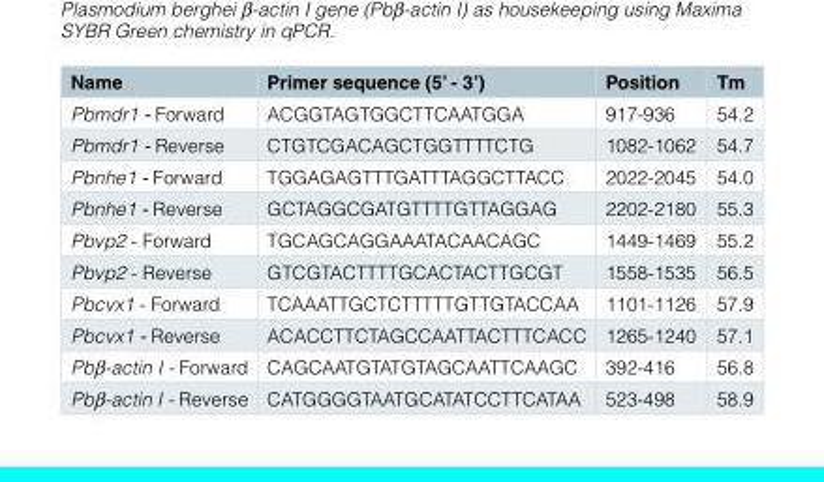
<table><thead><tr><td>Name</td><td>Primer sequence (5’ - 3’)</td><td>Position</td><td>Tm</td></tr></thead><tbody><tr><td>Pbmdr1 - Forward</td><td>ACGGTAGTGGCTTCAATGGA</td><td>917-936</td><td>54.2</td></tr><tr><td>Pbmdr1 - Reverse</td><td>CTGTCGACAGCTGGTTTTCTG</td><td>1082-1062</td><td>54.7</td></tr><tr><td>Pbnhe1 - Forward</td><td>TGGAGAGTTTGATTTAGGCTTACC</td><td>2022-2045</td><td>54.0</td></tr><tr><td>Pbnhe1 - Reverse</td><td>GCTAGGCGATGTTTTGTTAGGAG</td><td>2202-2180</td><td>55.3</td></tr><tr><td>Pbvp2 - Forward</td><td>TGCAGCAGGAAATACAACAGC</td><td>1449-1469</td><td>55.2</td></tr><tr><td>Pbvp2 - Reverse</td><td>GTCGTACTTTTGCACTACTTGCGT</td><td>1558-1535</td><td>56.5</td></tr><tr><td>Pbcvx1 - Forward</td><td>TCAAATTGCTCTTTTTGTTGTACCAA</td><td>1101-1126</td><td>57.9</td></tr><tr><td>Pbcvx1 - Reverse</td><td>ACACCTTCTAGCCAATTACTTTCACC</td><td>1265-1240</td><td>57.1</td></tr><tr><td>Pbβ-actin I - Forward</td><td>CAGCAATGTATGTAGCAATTCAAGC</td><td>392-416</td><td>56.8</td></tr><tr><td>Pbβ-actin I - Reverse</td><td>CATGGGGTAATGCATATCCTTCATAA</td><td>523-498</td><td>58.9</td></tr></tbody></table>